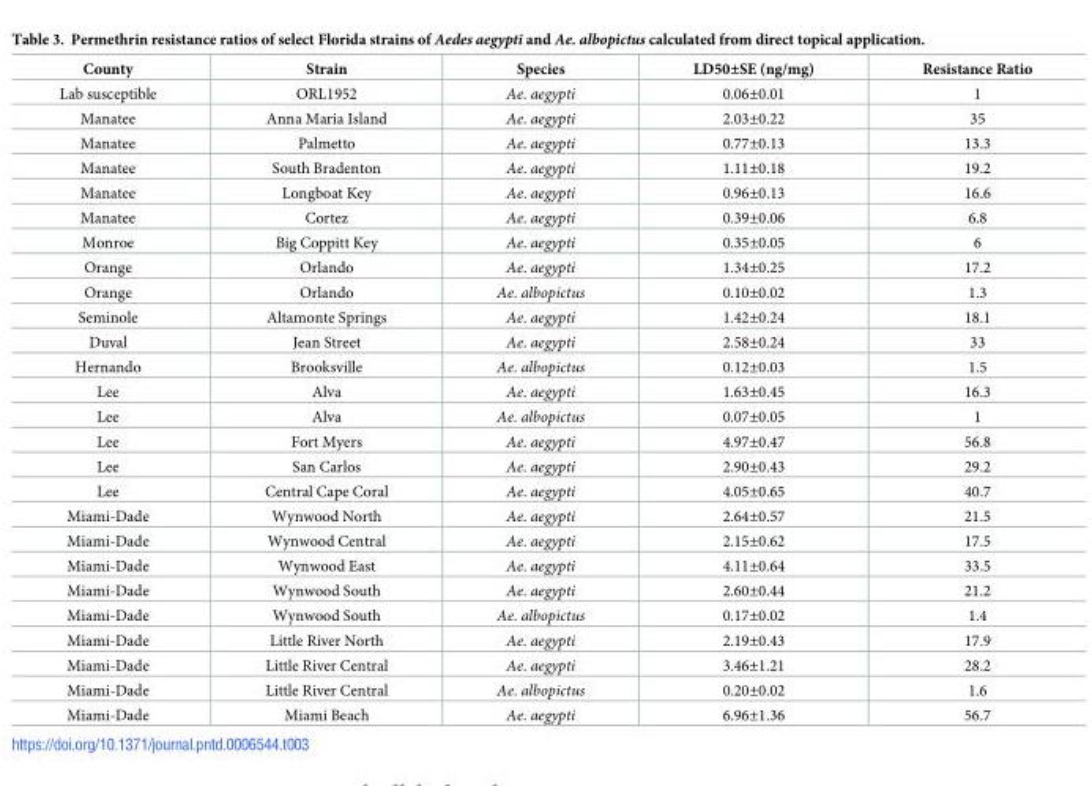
<table><thead><tr><td>County</td><td>Strain</td><td>Species</td><td>LD50±SE (ng/mg)</td><td>Resistance Ratio</td></tr></thead><tbody><tr><td>Lab susceptible</td><td>ORL1952</td><td>Ae. aegypti</td><td>0.06±0.01</td><td>1</td></tr><tr><td>Manatee</td><td>Anna Maria Island</td><td>Ae. aegypti</td><td>2.03±0.22</td><td>35</td></tr><tr><td>Manatee</td><td>Palmetto</td><td>Ae. aegypti</td><td>0.77±0.13</td><td>13.3</td></tr><tr><td>Manatee</td><td>South Bradenton</td><td>Ae. aegypti</td><td>1.11±0.18</td><td>19.2</td></tr><tr><td>Manatee</td><td>Longboat Key</td><td>Ae. aegypti</td><td>0.96±0.13</td><td>16.6</td></tr><tr><td>Manatee</td><td>Cortez</td><td>Ae. aegypti</td><td>0.39±0.06</td><td>6.8</td></tr><tr><td>Monroe</td><td>Big Coppitt Key</td><td>Ae. aegypti</td><td>0.35±0.05</td><td>6</td></tr><tr><td>Orange</td><td>Orlando</td><td>Ae. aegypti</td><td>1.34±0.25</td><td>17.2</td></tr><tr><td>Orange</td><td>Orlando</td><td>Ae. albopictus</td><td>0.10±0.02</td><td>1.3</td></tr><tr><td>Seminole</td><td>Altamonte Springs</td><td>Ae. aegypti</td><td>1.42±0.24</td><td>18.1</td></tr><tr><td>Duval</td><td>Jean Street</td><td>Ae. aegypti</td><td>2.58±0.24</td><td>33</td></tr><tr><td>Hernando</td><td>Brooksville</td><td>Ae. albopictus</td><td>0.12±0.03</td><td>1.5</td></tr><tr><td>Lee</td><td>Alva</td><td>Ae. aegypti</td><td>1.63±0.45</td><td>16.3</td></tr><tr><td>Lee</td><td>Alva</td><td>Ae. albopictus</td><td>0.07±0.05</td><td>1</td></tr><tr><td>Lee</td><td>Fort Myers</td><td>Ae. aegypti</td><td>4.97±0.47</td><td>56.8</td></tr><tr><td>Lee</td><td>San Carlos</td><td>Ae. aegypti</td><td>2.90±0.43</td><td>29.2</td></tr><tr><td>Lee</td><td>Central Cape Coral</td><td>Ae. aegypti</td><td>4.05±0.65</td><td>40.7</td></tr><tr><td>Miami-Dade</td><td>Wynwood North</td><td>Ae. aegypti</td><td>2.64±0.57</td><td>21.5</td></tr><tr><td>Miami-Dade</td><td>Wynwood Central</td><td>Ae. aegypti</td><td>2.15±0.62</td><td>17.5</td></tr><tr><td>Miami-Dade</td><td>Wynwood East</td><td>Ae. aegypti</td><td>4.11±0.64</td><td>33.5</td></tr><tr><td>Miami-Dade</td><td>Wynwood South</td><td>Ae. aegypti</td><td>2.60±0.44</td><td>21.2</td></tr><tr><td>Miami-Dade</td><td>Wynwood South</td><td>Ae. albopictus</td><td>0.17±0.02</td><td>1.4</td></tr><tr><td>Miami-Dade</td><td>Little River North</td><td>Ae. aegypti</td><td>2.19±0.43</td><td>17.9</td></tr><tr><td>Miami-Dade</td><td>Little River Central</td><td>Ae. aegypti</td><td>3.46±1.21</td><td>28.2</td></tr><tr><td>Miami-Dade</td><td>Little River Central</td><td>Ae. albopictus</td><td>0.20±0.02</td><td>1.6</td></tr><tr><td>Miami-Dade</td><td>Miami Beach</td><td>Ae. aegypti</td><td>6.96±1.36</td><td>56.7</td></tr></tbody></table>